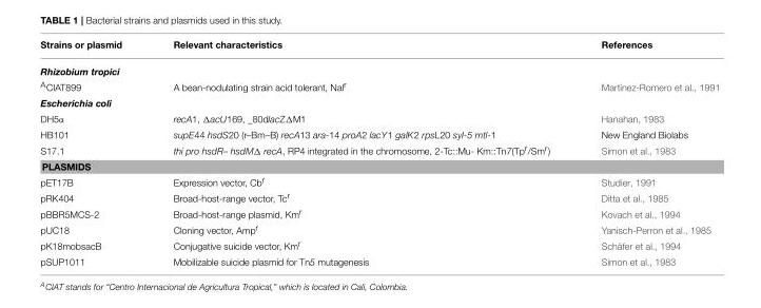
<table><thead><tr><td>Strains or plasmid</td><td>Relevant characteristics</td><td>References</td></tr></thead><tbody><tr><td colspan="3">Rhizobium tropici</td></tr><tr><td><sup>A</sup>CIAT899</td><td>A bean-nodulating strain acid tolerant, Nal<sup>r</sup></td><td>Martínez-Romero et al., 1991</td></tr><tr><td colspan="3">Escherichia coli</td></tr><tr><td>DH5α</td><td>recA1, ΔacU169, _80dlacZΔM1</td><td>Hanahan, 1983</td></tr><tr><td>HB101</td><td>supE44 hsdS20 (r–Bm–B) recA13 ara-14 proA2 lacY1 galK2 rpsL20 syl-5 mtl-1</td><td>New England Biolabs</td></tr><tr><td>S17.1</td><td>thi pro hsdR– hsdMΔ recA, RP4 integrated in the chromosome, 2-Tc::Mu- Km::Tn7(Tp<sup>r</sup>/Sm<sup>r</sup>)</td><td>Simon et al., 1983</td></tr><tr><td colspan="3">PLASMIDS</td></tr><tr><td>pET17B</td><td>Expression vector, Cb<sup>r</sup></td><td>Studier, 1991</td></tr><tr><td>pRK404</td><td>Broad-host-range vector, Tc<sup>r</sup></td><td>Ditta et al., 1985</td></tr><tr><td>pBBR5MCS-2</td><td>Broad-host-range plasmid, Km<sup>r</sup></td><td>Kovach et al., 1994</td></tr><tr><td>pUC18</td><td>Cloning vector, Amp<sup>r</sup></td><td>Yanisch-Perron et al., 1985</td></tr><tr><td>pK18mobsacB</td><td>Conjugative suicide vector, Km<sup>r</sup></td><td>Schäfer et al., 1994</td></tr><tr><td>pSUP1011</td><td>Mobilizable suicide plasmid for Tn5 mutagenesis</td><td>Simon et al., 1983</td></tr></tbody></table>